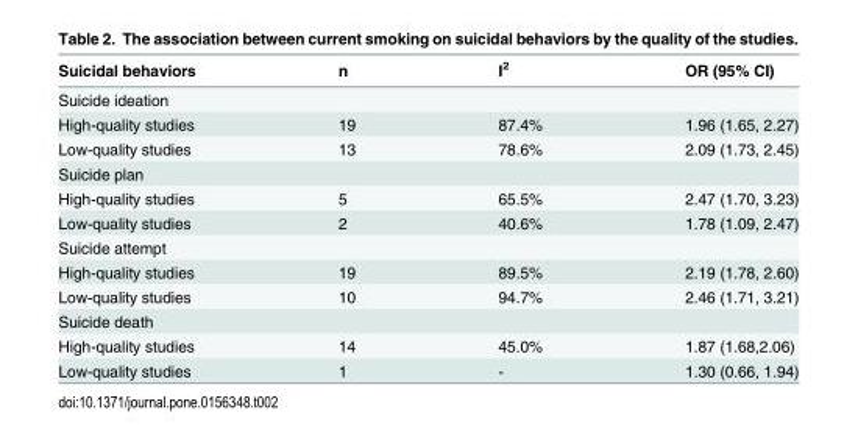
<table><thead><tr><td>Suicidal behaviors</td><td>n</td><td>I<sup>2</sup></td><td>OR (95% CI)</td></tr></thead><tbody><tr><td colspan="4">Suicide ideation</td></tr><tr><td>High-quality studies</td><td>19</td><td>87.4%</td><td>1.96 (1.65, 2.27)</td></tr><tr><td>Low-quality studies</td><td>13</td><td>78.6%</td><td>2.09 (1.73, 2.45)</td></tr><tr><td colspan="4">Suicide plan</td></tr><tr><td>High-quality studies</td><td>5</td><td>65.5%</td><td>2.47 (1.70, 3.23)</td></tr><tr><td>Low-quality studies</td><td>2</td><td>40.6%</td><td>1.78 (1.09, 2.47)</td></tr><tr><td colspan="4">Suicide attempt</td></tr><tr><td>High-quality studies</td><td>19</td><td>89.5%</td><td>2.19 (1.78, 2.60)</td></tr><tr><td>Low-quality studies</td><td>10</td><td>94.7%</td><td>2.46 (1.71, 3.21)</td></tr><tr><td colspan="4">Suicide death</td></tr><tr><td>High-quality studies</td><td>14</td><td>45.0%</td><td>1.87 (1.68,2.06)</td></tr><tr><td>Low-quality studies</td><td>1</td><td>-</td><td>1.30 (0.66, 1.94)</td></tr></tbody></table>